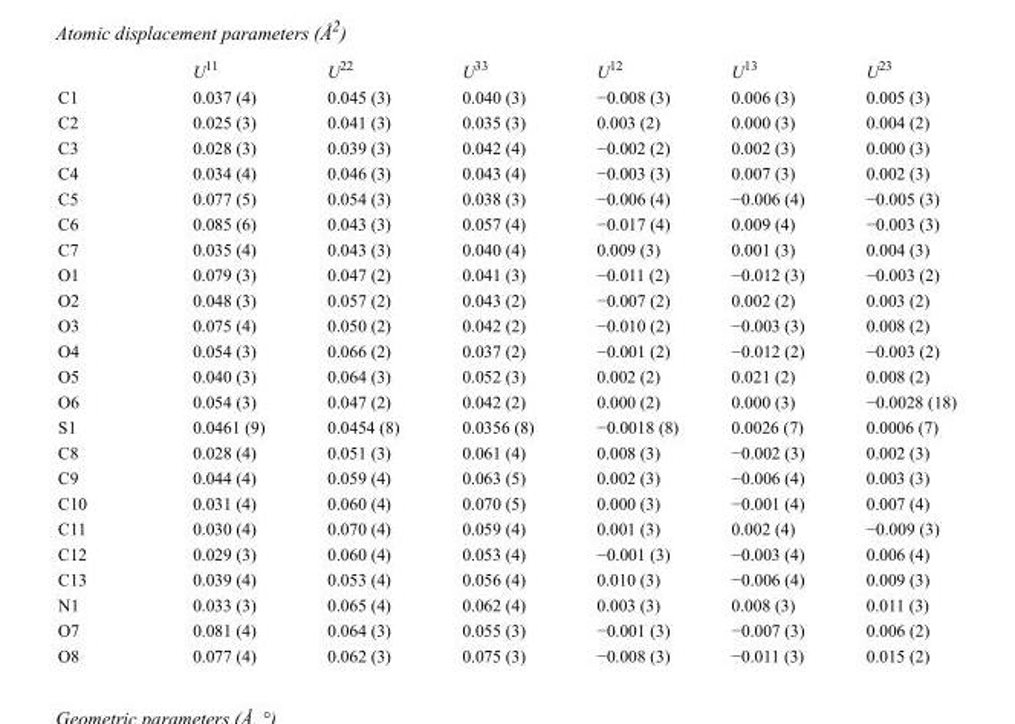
<table><thead><tr><td></td><td>U<sup>11</sup></td><td>U<sup>22</sup></td><td>U<sup>33</sup></td><td>U<sup>12</sup></td><td>U<sup>13</sup></td><td>U<sup>23</sup></td></tr></thead><tbody><tr><td>C1</td><td>0.037 (4)</td><td>0.045 (3)</td><td>0.040 (3)</td><td>−0.008 (3)</td><td>0.006 (3)</td><td>0.005 (3)</td></tr><tr><td>C2</td><td>0.025 (3)</td><td>0.041 (3)</td><td>0.035 (3)</td><td>0.003 (2)</td><td>0.000 (3)</td><td>0.004 (2)</td></tr><tr><td>C3</td><td>0.028 (3)</td><td>0.039 (3)</td><td>0.042 (4)</td><td>−0.002 (2)</td><td>0.002 (3)</td><td>0.000 (3)</td></tr><tr><td>C4</td><td>0.034 (4)</td><td>0.046 (3)</td><td>0.043 (4)</td><td>−0.003 (3)</td><td>0.007 (3)</td><td>0.002 (3)</td></tr><tr><td>C5</td><td>0.077 (5)</td><td>0.054 (3)</td><td>0.038 (3)</td><td>−0.006 (4)</td><td>−0.006 (4)</td><td>−0.005 (3)</td></tr><tr><td>C6</td><td>0.085 (6)</td><td>0.043 (3)</td><td>0.057 (4)</td><td>−0.017 (4)</td><td>0.009 (4)</td><td>−0.003 (3)</td></tr><tr><td>C7</td><td>0.035 (4)</td><td>0.043 (3)</td><td>0.040 (4)</td><td>0.009 (3)</td><td>0.001 (3)</td><td>0.004 (3)</td></tr><tr><td>O1</td><td>0.079 (3)</td><td>0.047 (2)</td><td>0.041 (3)</td><td>−0.011 (2)</td><td>−0.012 (3)</td><td>−0.003 (2)</td></tr><tr><td>O2</td><td>0.048 (3)</td><td>0.057 (2)</td><td>0.043 (2)</td><td>−0.007 (2)</td><td>0.002 (2)</td><td>0.003 (2)</td></tr><tr><td>O3</td><td>0.075 (4)</td><td>0.050 (2)</td><td>0.042 (2)</td><td>−0.010 (2)</td><td>−0.003 (3)</td><td>0.008 (2)</td></tr><tr><td>O4</td><td>0.054 (3)</td><td>0.066 (2)</td><td>0.037 (2)</td><td>−0.001 (2)</td><td>−0.012 (2)</td><td>−0.003 (2)</td></tr><tr><td>O5</td><td>0.040 (3)</td><td>0.064 (3)</td><td>0.052 (3)</td><td>0.002 (2)</td><td>0.021 (2)</td><td>0.008 (2)</td></tr><tr><td>O6</td><td>0.054 (3)</td><td>0.047 (2)</td><td>0.042 (2)</td><td>0.000 (2)</td><td>0.000 (3)</td><td>−0.0028 (18)</td></tr><tr><td>S1</td><td>0.0461 (9)</td><td>0.0454 (8)</td><td>0.0356 (8)</td><td>−0.0018 (8)</td><td>0.0026 (7)</td><td>0.0006 (7)</td></tr><tr><td>C8</td><td>0.028 (4)</td><td>0.051 (3)</td><td>0.061 (4)</td><td>0.008 (3)</td><td>−0.002 (3)</td><td>0.002 (3)</td></tr><tr><td>C9</td><td>0.044 (4)</td><td>0.059 (4)</td><td>0.063 (5)</td><td>0.002 (3)</td><td>−0.006 (4)</td><td>0.003 (3)</td></tr><tr><td>C10</td><td>0.031 (4)</td><td>0.060 (4)</td><td>0.070 (5)</td><td>0.000 (3)</td><td>−0.001 (4)</td><td>0.007 (4)</td></tr><tr><td>C11</td><td>0.030 (4)</td><td>0.070 (4)</td><td>0.059 (4)</td><td>0.001 (3)</td><td>0.002 (4)</td><td>−0.009 (3)</td></tr><tr><td>C12</td><td>0.029 (3)</td><td>0.060 (4)</td><td>0.053 (4)</td><td>−0.001 (3)</td><td>−0.003 (4)</td><td>0.006 (4)</td></tr><tr><td>C13</td><td>0.039 (4)</td><td>0.053 (4)</td><td>0.056 (4)</td><td>0.010 (3)</td><td>−0.006 (4)</td><td>0.009 (3)</td></tr><tr><td>N1</td><td>0.033 (3)</td><td>0.065 (4)</td><td>0.062 (4)</td><td>0.003 (3)</td><td>0.008 (3)</td><td>0.011 (3)</td></tr><tr><td>O7</td><td>0.081 (4)</td><td>0.064 (3)</td><td>0.055 (3)</td><td>−0.001 (3)</td><td>−0.007 (3)</td><td>0.006 (2)</td></tr><tr><td>O8</td><td>0.077 (4)</td><td>0.062 (3)</td><td>0.075 (3)</td><td>−0.008 (3)</td><td>−0.011 (3)</td><td>0.015 (2)</td></tr></tbody></table>